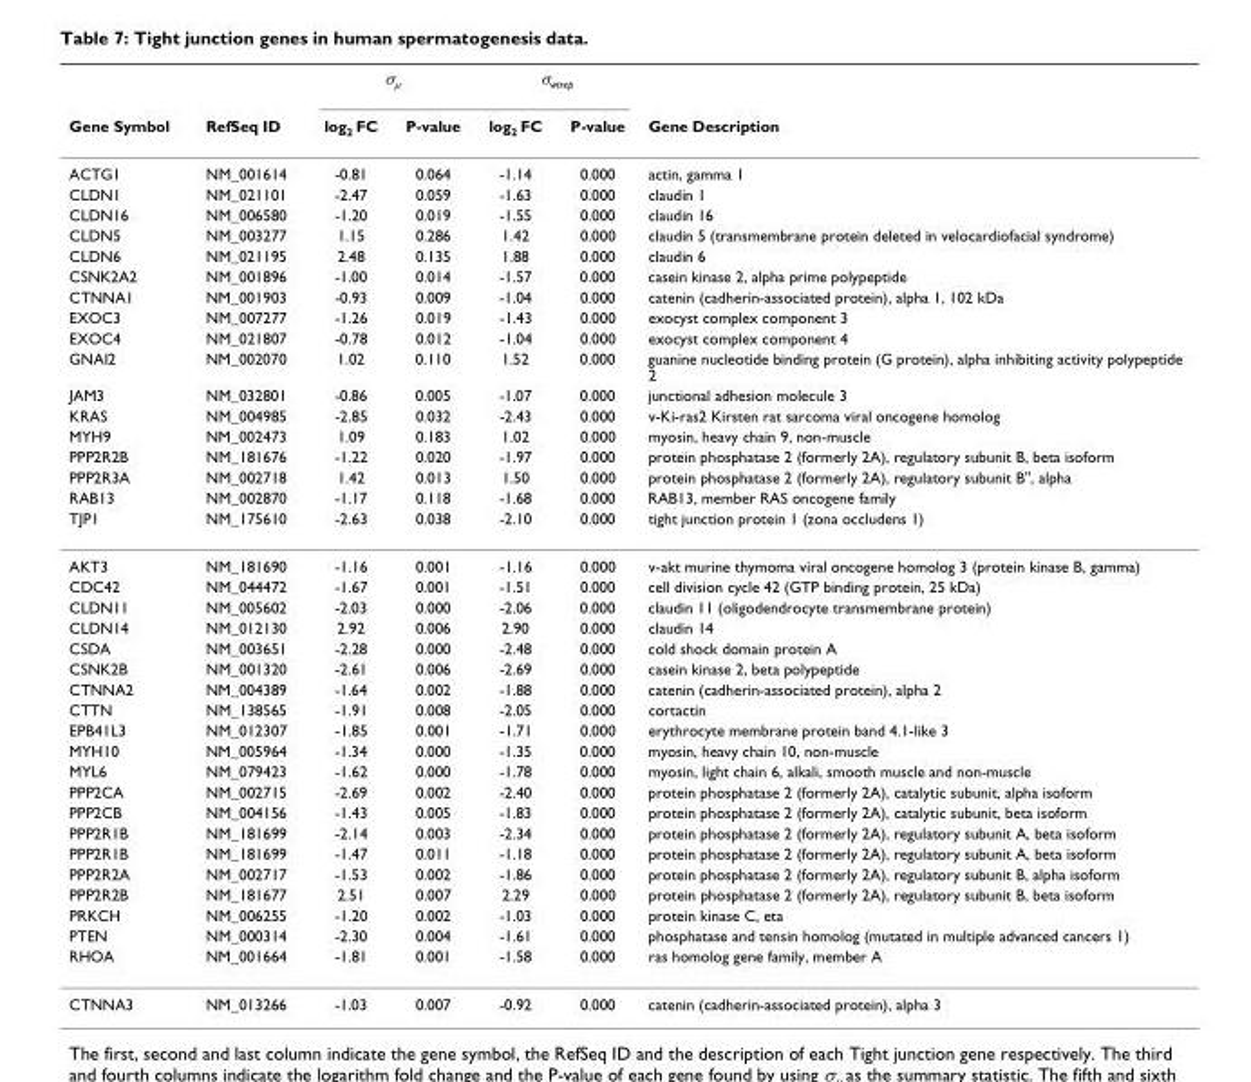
<table><thead><tr><td rowspan="2">Gene Symbol</td><td rowspan="2">RefSeq ID</td><td colspan="2">σ<sub>μ</sub></td><td colspan="2">σ<sub>wtrep</sub></td><td rowspan="2">Gene Description</td></tr><tr><td>log<sub>2</sub> FC</td><td>P-value</td><td>log<sub>2</sub> FC</td><td>P-value</td></tr></thead><tbody><tr><td>ACTG1</td><td>NM_001614</td><td>-0.81</td><td>0.064</td><td>-1.14</td><td>0.000</td><td>actin, gamma 1</td></tr><tr><td>CLDN1</td><td>NM_021101</td><td>-2.47</td><td>0.059</td><td>-1.63</td><td>0.000</td><td>claudin 1</td></tr><tr><td>CLDN16</td><td>NM_006580</td><td>-1.20</td><td>0.019</td><td>-1.55</td><td>0.000</td><td>claudin 16</td></tr><tr><td>CLDN5</td><td>NM_003277</td><td>1.15</td><td>0.286</td><td>1.42</td><td>0.000</td><td>claudin 5 (transmembrane protein deleted in velocardiofacial syndrome)</td></tr><tr><td>CLDN6</td><td>NM_021195</td><td>2.48</td><td>0.135</td><td>1.88</td><td>0.000</td><td>claudin 6</td></tr><tr><td>CSNK2A2</td><td>NM_001896</td><td>-1.00</td><td>0.014</td><td>-1.57</td><td>0.000</td><td>casein kinase 2, alpha prime polypeptide</td></tr><tr><td>CTNNA1</td><td>NM_001903</td><td>-0.93</td><td>0.009</td><td>-1.04</td><td>0.000</td><td>catenin (cadherin-associated protein), alpha 1, 102 kDa</td></tr><tr><td>EXOC3</td><td>NM_007277</td><td>-1.26</td><td>0.019</td><td>-1.43</td><td>0.000</td><td>exocyst complex component 3</td></tr><tr><td>EXOC4</td><td>NM_021807</td><td>-0.78</td><td>0.012</td><td>-1.04</td><td>0.000</td><td>exocyst complex component 4</td></tr><tr><td>GNAI2</td><td>NM_002070</td><td>1.02</td><td>0.110</td><td>1.52</td><td>0.000</td><td>guanine nucleotide binding protein (G protein), alpha inhibiting activity polypeptide 2</td></tr><tr><td>JAM3</td><td>NM_032801</td><td>-0.86</td><td>0.005</td><td>-1.07</td><td>0.000</td><td>junctional adhesion molecule 3</td></tr><tr><td>KRAS</td><td>NM_004985</td><td>-2.85</td><td>0.032</td><td>-2.43</td><td>0.000</td><td>v-Ki-ras2 Kirsten rat sarcoma viral oncogene homolog</td></tr><tr><td>MYH9</td><td>NM_002473</td><td>1.09</td><td>0.183</td><td>1.02</td><td>0.000</td><td>myosin, heavy chain 9, non-muscle</td></tr><tr><td>PPP2R2B</td><td>NM_181676</td><td>-1.22</td><td>0.020</td><td>-1.97</td><td>0.000</td><td>protein phosphatase 2 (formerly 2A), regulatory subunit B, beta isoform</td></tr><tr><td>PPP2R3A</td><td>NM_002718</td><td>1.42</td><td>0.013</td><td>1.50</td><td>0.000</td><td>protein phosphatase 2 (formerly 2A), regulatory subunit B&quot;, alpha</td></tr><tr><td>RAB13</td><td>NM_002870</td><td>-1.17</td><td>0.118</td><td>-1.68</td><td>0.000</td><td>RAB13, member RAS oncogene family</td></tr><tr><td>TJP1</td><td>NM_175610</td><td>-2.63</td><td>0.038</td><td>-2.10</td><td>0.000</td><td>tight junction protein 1 (zona occludens 1)</td></tr><tr><td>AKT3</td><td>NM_181690</td><td>-1.16</td><td>0.001</td><td>-1.16</td><td>0.000</td><td>v-akt murine thymoma viral oncogene homolog 3 (protein kinase B, gamma)</td></tr><tr><td>CDC42</td><td>NM_044472</td><td>-1.67</td><td>0.001</td><td>-1.51</td><td>0.000</td><td>cell division cycle 42 (GTP binding protein, 25 kDa)</td></tr><tr><td>CLDN11</td><td>NM_005602</td><td>-2.03</td><td>0.000</td><td>-2.06</td><td>0.000</td><td>claudin 11 (oligodendrocyte transmembrane protein)</td></tr><tr><td>CLDN14</td><td>NM_012130</td><td>2.92</td><td>0.006</td><td>2.90</td><td>0.000</td><td>claudin 14</td></tr><tr><td>CSDA</td><td>NM_003651</td><td>-2.28</td><td>0.000</td><td>-2.48</td><td>0.000</td><td>cold shock domain protein A</td></tr><tr><td>CSNK2B</td><td>NM_001320</td><td>-2.61</td><td>0.006</td><td>-2.69</td><td>0.000</td><td>casein kinase 2, beta polypeptide</td></tr><tr><td>CTNNA2</td><td>NM_004389</td><td>-1.64</td><td>0.002</td><td>-1.88</td><td>0.000</td><td>catenin (cadherin-associated protein), alpha 2</td></tr><tr><td>CTTN</td><td>NM_138565</td><td>-1.91</td><td>0.008</td><td>-2.05</td><td>0.000</td><td>cortactin</td></tr><tr><td>EPB41L3</td><td>NM_012307</td><td>-1.85</td><td>0.001</td><td>-1.71</td><td>0.000</td><td>erythrocyte membrane protein band 4.1-like 3</td></tr><tr><td>MYH10</td><td>NM_005964</td><td>-1.34</td><td>0.000</td><td>-1.35</td><td>0.000</td><td>myosin, heavy chain 10, non-muscle</td></tr><tr><td>MYL6</td><td>NM_079423</td><td>-1.62</td><td>0.000</td><td>-1.78</td><td>0.000</td><td>myosin, light chain 6, alkali, smooth muscle and non-muscle</td></tr><tr><td>PPP2CA</td><td>NM_002715</td><td>-2.69</td><td>0.002</td><td>-2.40</td><td>0.000</td><td>protein phosphatase 2 (formerly 2A), catalytic subunit, alpha isoform</td></tr><tr><td>PPP2CB</td><td>NM_004156</td><td>-1.43</td><td>0.005</td><td>-1.83</td><td>0.000</td><td>protein phosphatase 2 (formerly 2A), catalytic subunit, beta isoform</td></tr><tr><td>PPP2R1B</td><td>NM_181699</td><td>-2.14</td><td>0.003</td><td>-2.34</td><td>0.000</td><td>protein phosphatase 2 (formerly 2A), regulatory subunit A, beta isoform</td></tr><tr><td>PPP2R1B</td><td>NM_181699</td><td>-1.47</td><td>0.011</td><td>-1.18</td><td>0.000</td><td>protein phosphatase 2 (formerly 2A), regulatory subunit A, beta isoform</td></tr><tr><td>PPP2R2A</td><td>NM_002717</td><td>-1.53</td><td>0.002</td><td>-1.86</td><td>0.000</td><td>protein phosphatase 2 (formerly 2A), regulatory subunit B, alpha isoform</td></tr><tr><td>PPP2R2B</td><td>NM_181677</td><td>2.51</td><td>0.007</td><td>2.29</td><td>0.000</td><td>protein phosphatase 2 (formerly 2A), regulatory subunit B, beta isoform</td></tr><tr><td>PRKCH</td><td>NM_006255</td><td>-1.20</td><td>0.002</td><td>-1.03</td><td>0.000</td><td>protein kinase C, eta</td></tr><tr><td>PTEN</td><td>NM_000314</td><td>-2.30</td><td>0.004</td><td>-1.61</td><td>0.000</td><td>phosphatase and tensin homolog (mutated in multiple advanced cancers 1)</td></tr><tr><td>RHOA</td><td>NM_001664</td><td>-1.81</td><td>0.001</td><td>-1.58</td><td>0.000</td><td>ras homolog gene family, member A</td></tr><tr><td>CTNNA3</td><td>NM_013266</td><td>-1.03</td><td>0.007</td><td>-0.92</td><td>0.000</td><td>catenin (cadherin-associated protein), alpha 3</td></tr></tbody></table>